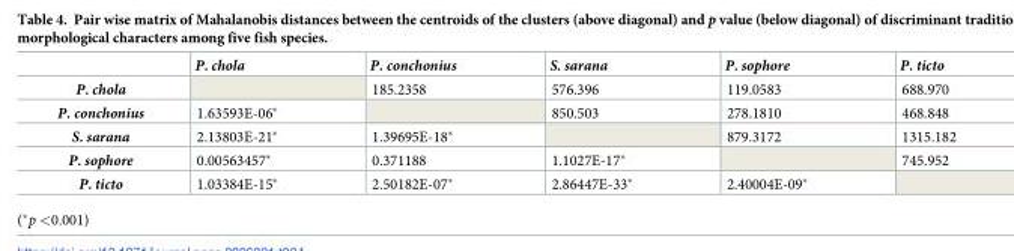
<table><thead><tr><td></td><td>P. chola</td><td>P. conchonius</td><td>S. sarana</td><td>P. sophore</td><td>P. ticto</td></tr></thead><tbody><tr><td>P. chola</td><td></td><td>185.2358</td><td>576.396</td><td>119.0583</td><td>688.970</td></tr><tr><td>P. conchonius</td><td>1.63593E-06*</td><td></td><td>850.503</td><td>278.1810</td><td>468.848</td></tr><tr><td>S. sarana</td><td>2.13803E-21*</td><td>1.39695E-18*</td><td></td><td>879.3172</td><td>1315.182</td></tr><tr><td>P. sophore</td><td>0.00563457*</td><td>0.371188</td><td>1.1027E-17*</td><td></td><td>745.952</td></tr><tr><td>P. ticto</td><td>1.03384E-15*</td><td>2.50182E-07*</td><td>2.86447E-33*</td><td>2.40004E-09*</td><td></td></tr></tbody></table>